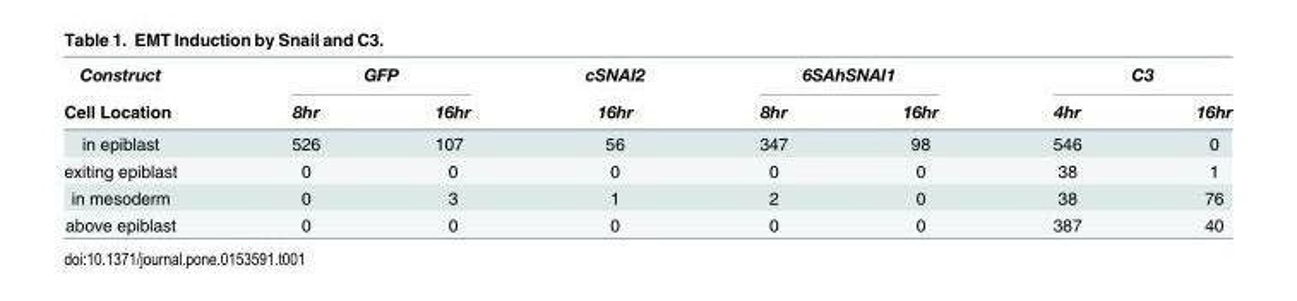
<table><thead><tr><td rowspan="2">Construct Cell Location</td><td colspan="2">GFP</td><td rowspan="2">cSNAI2 16hr</td><td colspan="2">6SAhSNAI1</td><td colspan="2">C3</td></tr><tr><td>8hr</td><td>16hr</td><td>8hr</td><td>16hr</td><td>4hr</td><td>16hr</td></tr></thead><tbody><tr><td>in epiblast</td><td>526</td><td>107</td><td>56</td><td>347</td><td>98</td><td>546</td><td>0</td></tr><tr><td>exiting epiblast</td><td>0</td><td>0</td><td>0</td><td>0</td><td>0</td><td>38</td><td>1</td></tr><tr><td>in mesoderm</td><td>0</td><td>3</td><td>1</td><td>2</td><td>0</td><td>38</td><td>76</td></tr><tr><td>above epiblast</td><td>0</td><td>0</td><td>0</td><td>0</td><td>0</td><td>387</td><td>40</td></tr></tbody></table>